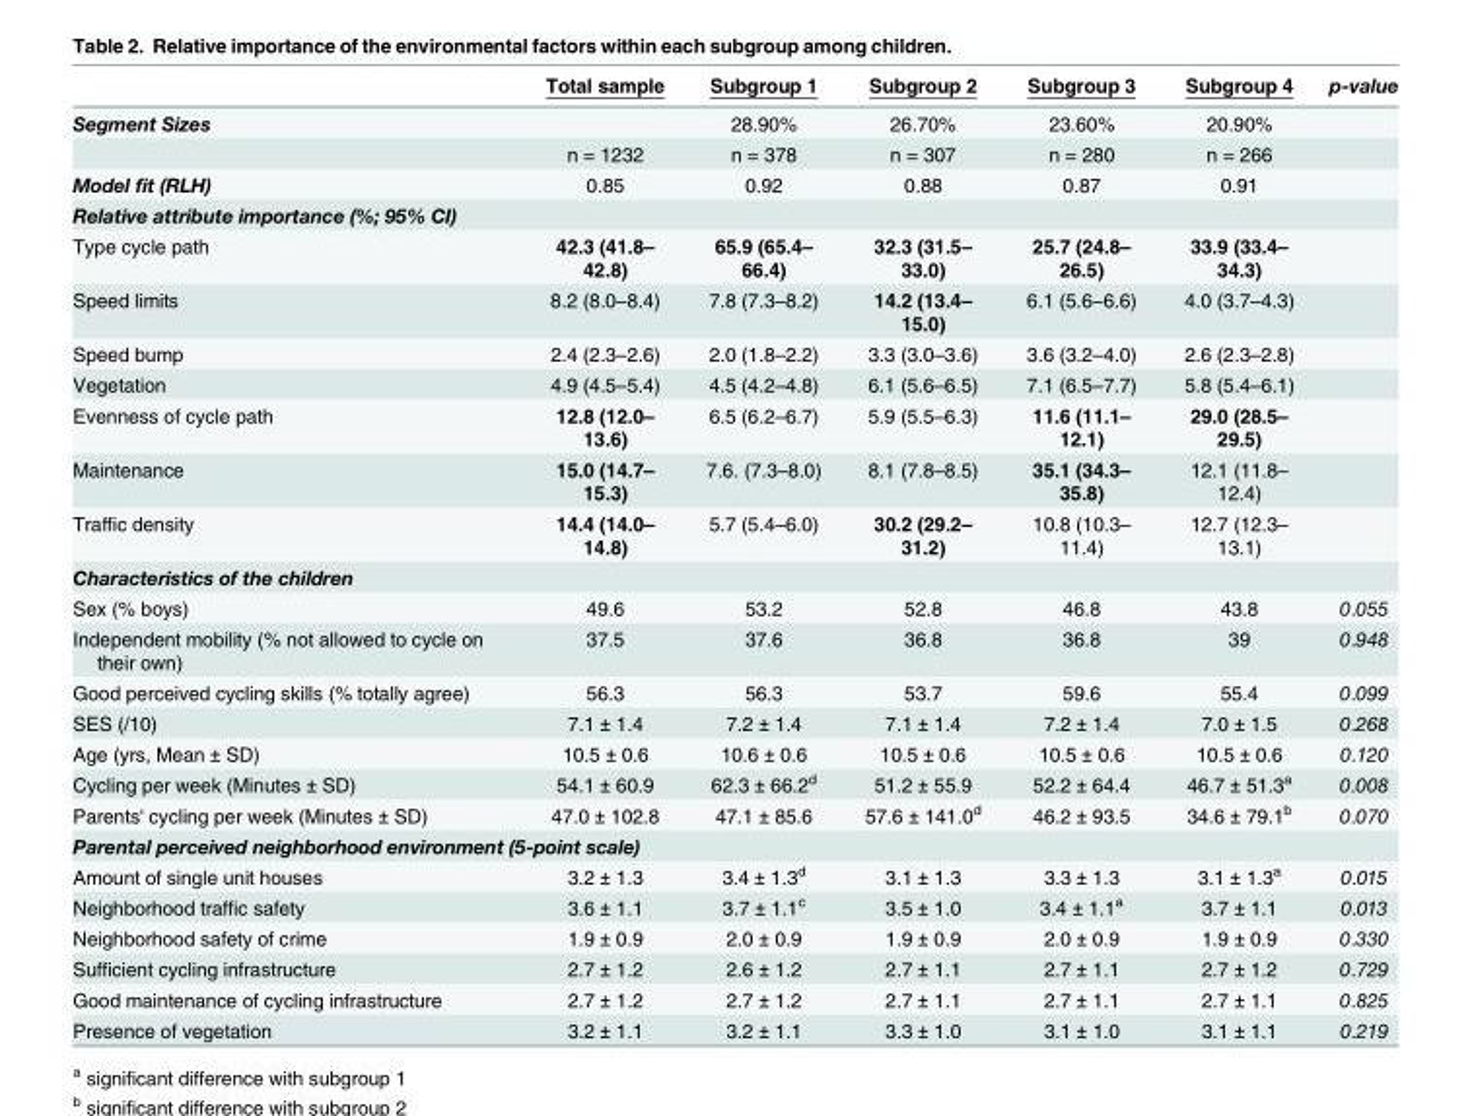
<table><thead><tr><td></td><td>Total sample</td><td>Subgroup 1</td><td>Subgroup 2</td><td>Subgroup 3</td><td>Subgroup 4</td><td>p-value</td></tr></thead><tbody><tr><td rowspan="2">Segment Sizes</td><td></td><td>28.90%</td><td>26.70%</td><td>23.60%</td><td>20.90%</td><td></td></tr><tr><td>n = 1232</td><td>n = 378</td><td>n = 307</td><td>n = 280</td><td>n = 266</td><td></td></tr><tr><td>Model fit (RLH)</td><td>0.85</td><td>0.92</td><td>0.88</td><td>0.87</td><td>0.91</td><td></td></tr><tr><td colspan="7">Relative attribute importance (%; 95% CI)</td></tr><tr><td>Type cycle path</td><td>42.3 (41.8– 42.8)</td><td>65.9 (65.4– 66.4)</td><td>32.3 (31.5– 33.0)</td><td>25.7 (24.8– 26.5)</td><td>33.9 (33.4– 34.3)</td><td></td></tr><tr><td>Speed limits</td><td>8.2 (8.0–8.4)</td><td>7.8 (7.3–8.2)</td><td>14.2 (13.4– 15.0)</td><td>6.1 (5.6–6.6)</td><td>4.0 (3.7–4.3)</td><td></td></tr><tr><td>Speed bump</td><td>2.4 (2.3–2.6)</td><td>2.0 (1.8–2.2)</td><td>3.3 (3.0–3.6)</td><td>3.6 (3.2–4.0)</td><td>2.6 (2.3–2.8)</td><td></td></tr><tr><td>Vegetation</td><td>4.9 (4.5–5.4)</td><td>4.5 (4.2–4.8)</td><td>6.1 (5.6–6.5)</td><td>7.1 (6.5–7.7)</td><td>5.8 (5.4–6.1)</td><td></td></tr><tr><td>Evenness of cycle path</td><td>12.8 (12.0– 13.6)</td><td>6.5 (6.2–6.7)</td><td>5.9 (5.5–6.3)</td><td>11.6 (11.1– 12.1)</td><td>29.0 (28.5– 29.5)</td><td></td></tr><tr><td>Maintenance</td><td>15.0 (14.7– 15.3)</td><td>7.6. (7.3–8.0)</td><td>8.1 (7.8–8.5)</td><td>35.1 (34.3– 35.8)</td><td>12.1 (11.8– 12.4)</td><td></td></tr><tr><td>Traffic density</td><td>14.4 (14.0– 14.8)</td><td>5.7 (5.4–6.0)</td><td>30.2 (29.2– 31.2)</td><td>10.8 (10.3– 11.4)</td><td>12.7 (12.3– 13.1)</td><td></td></tr><tr><td colspan="7">Characteristics of the children</td></tr><tr><td>Sex (% boys)</td><td>49.6</td><td>53.2</td><td>52.8</td><td>46.8</td><td>43.8</td><td>0.055</td></tr><tr><td>Independent mobility (% not allowed to cycle on their own)</td><td>37.5</td><td>37.6</td><td>36.8</td><td>36.8</td><td>39</td><td>0.948</td></tr><tr><td>Good perceived cycling skills (% totally agree)</td><td>56.3</td><td>56.3</td><td>53.7</td><td>59.6</td><td>55.4</td><td>0.099</td></tr><tr><td>SES (/10)</td><td>7.1 ± 1.4</td><td>7.2 ± 1.4</td><td>7.1 ± 1.4</td><td>7.2 ± 1.4</td><td>7.0 ± 1.5</td><td>0.268</td></tr><tr><td>Age (yrs, Mean ± SD)</td><td>10.5 ± 0.6</td><td>10.6 ± 0.6</td><td>10.5 ± 0.6</td><td>10.5 ± 0.6</td><td>10.5 ± 0.6</td><td>0.120</td></tr><tr><td>Cycling per week (Minutes ± SD)</td><td>54.1 ± 60.9</td><td>62.3 ± 66.2<sup>d</sup></td><td>51.2 ± 55.9</td><td>52.2 ± 64.4</td><td>46.7 ± 51.3<sup>a</sup></td><td>0.008</td></tr><tr><td>Parents&#x27; cycling per week (Minutes ± SD)</td><td>47.0 ± 102.8</td><td>47.1 ± 85.6</td><td>57.6 ± 141.0<sup>d</sup></td><td>46.2 ± 93.5</td><td>34.6 ± 79.1<sup>b</sup></td><td>0.070</td></tr><tr><td colspan="7">Parental perceived neighborhood environment (5-point scale)</td></tr><tr><td>Amount of single unit houses</td><td>3.2 ± 1.3</td><td>3.4 ± 1.3<sup>d</sup></td><td>3.1 ± 1.3</td><td>3.3 ± 1.3</td><td>3.1 ± 1.3<sup>a</sup></td><td>0.015</td></tr><tr><td>Neighborhood traffic safety</td><td>3.6 ± 1.1</td><td>3.7 ± 1.1<sup>c</sup></td><td>3.5 ± 1.0</td><td>3.4 ± 1.1<sup>a</sup></td><td>3.7 ± 1.1</td><td>0.013</td></tr><tr><td>Neighborhood safety of crime</td><td>1.9 ± 0.9</td><td>2.0 ± 0.9</td><td>1.9 ± 0.9</td><td>2.0 ± 0.9</td><td>1.9 ± 0.9</td><td>0.330</td></tr><tr><td>Sufficient cycling infrastructure</td><td>2.7 ± 1.2</td><td>2.6 ± 1.2</td><td>2.7 ± 1.1</td><td>2.7 ± 1.1</td><td>2.7 ± 1.2</td><td>0.729</td></tr><tr><td>Good maintenance of cycling infrastructure</td><td>2.7 ± 1.2</td><td>2.7 ± 1.2</td><td>2.7 ± 1.1</td><td>2.7 ± 1.1</td><td>2.7 ± 1.1</td><td>0.825</td></tr><tr><td>Presence of vegetation</td><td>3.2 ± 1.1</td><td>3.2 ± 1.1</td><td>3.3 ± 1.0</td><td>3.1 ± 1.0</td><td>3.1 ± 1.1</td><td>0.219</td></tr></tbody></table>